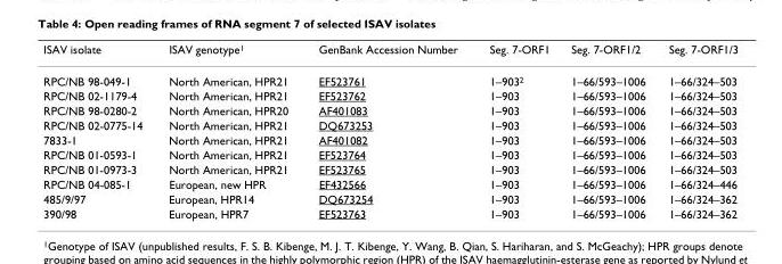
<table><thead><tr><td>ISAV isolate</td><td>ISAV genotype<sup>1</sup></td><td>GenBank Accession Number</td><td>Seg. 7-ORF1</td><td>Seg. 7-ORF1/2</td><td>Seg. 7-ORF1/3</td></tr></thead><tbody><tr><td>RPC/NB 98-049-1</td><td>North American, HPR21</td><td>EF523761</td><td>1–903<sup>2</sup></td><td>1–66/593–1006</td><td>1–66/324–503</td></tr><tr><td>RPC/NB 02-1179-4</td><td>North American, HPR21</td><td>EF523762</td><td>1–903</td><td>1–66/593–1006</td><td>1–66/324–503</td></tr><tr><td>RPC/NB 98-0280-2</td><td>North American, HPR20</td><td>AF401083</td><td>1–903</td><td>1–66/593–1006</td><td>1–66/324–503</td></tr><tr><td>RPC/NB 02-0775-14</td><td>North American, HPR21</td><td>DQ673253</td><td>1–903</td><td>1–66/593–1006</td><td>1–66/324–503</td></tr><tr><td>7833-1</td><td>North American, HPR21</td><td>AF401082</td><td>1–903</td><td>1–66/593–1006</td><td>1–66/324–503</td></tr><tr><td>RPC/NB 01-0593-1</td><td>North American, HPR21</td><td>EF523764</td><td>1–903</td><td>1–66/593–1006</td><td>1–66/324–503</td></tr><tr><td>RPC/NB 01-0973-3</td><td>North American, HPR21</td><td>EF523765</td><td>1–903</td><td>1–66/593–1006</td><td>1–66/324–503</td></tr><tr><td>RPC/NB 04-085-1</td><td>European, new HPR</td><td>EF432566</td><td>1–903</td><td>1–66/593–1006</td><td>1–66/324–446</td></tr><tr><td>485/9/97</td><td>European, HPR14</td><td>DQ673254</td><td>1–903</td><td>1–66/593–1006</td><td>1–66/324–362</td></tr><tr><td>390/98</td><td>European, HPR7</td><td>EF523763</td><td>1–903</td><td>1–66/593–1006</td><td>1–66/324–362</td></tr></tbody></table>